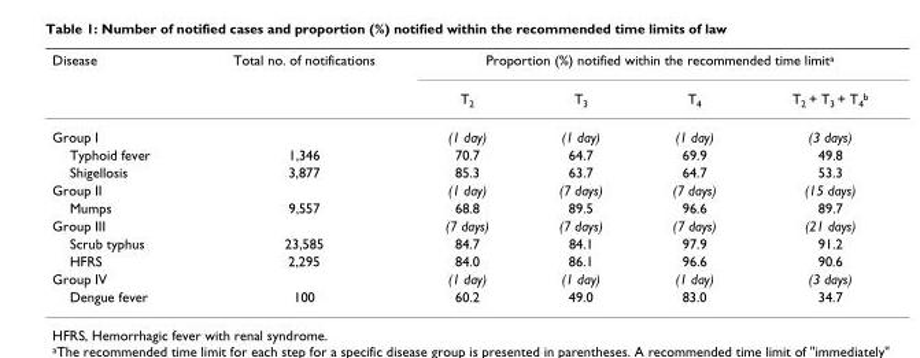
<table><thead><tr><td rowspan="2">Disease</td><td rowspan="2">Total no. of notifications</td><td colspan="4">Proportion (%) notified within the recommended time limit<sup>a</sup></td></tr><tr><td>T<sub>2</sub></td><td>T<sub>3</sub></td><td>T<sub>4</sub></td><td>T<sub>2</sub> + T<sub>3</sub> + T<sub>4</sub><sup>b</sup></td></tr></thead><tbody><tr><td>Group I</td><td></td><td>(1 day)</td><td>(1 day)</td><td>(1 day)</td><td>(3 days)</td></tr><tr><td>Typhoid fever</td><td>1,346</td><td>70.7</td><td>64.7</td><td>69.9</td><td>49.8</td></tr><tr><td>Shigellosis</td><td>3,877</td><td>85.3</td><td>63.7</td><td>64.7</td><td>53.3</td></tr><tr><td>Group II</td><td></td><td>(1 day)</td><td>(7 days)</td><td>(7 days)</td><td>(15 days)</td></tr><tr><td>Mumps</td><td>9,557</td><td>68.8</td><td>89.5</td><td>96.6</td><td>89.7</td></tr><tr><td>Group III</td><td></td><td>(7 days)</td><td>(7 days)</td><td>(7 days)</td><td>(21 days)</td></tr><tr><td>Scrub typhus</td><td>23,585</td><td>84.7</td><td>84.1</td><td>97.9</td><td>91.2</td></tr><tr><td>HFRS</td><td>2,295</td><td>84.0</td><td>86.1</td><td>96.6</td><td>90.6</td></tr><tr><td>Group IV</td><td></td><td>(1 day)</td><td>(1 day)</td><td>(1 day)</td><td>(3 days)</td></tr><tr><td>Dengue fever</td><td>100</td><td>60.2</td><td>49.0</td><td>83.0</td><td>34.7</td></tr></tbody></table>